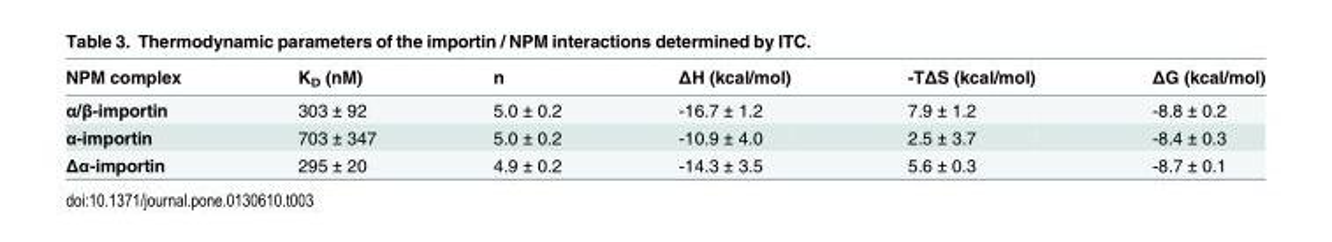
<table><thead><tr><td>NPM complex</td><td>K<sub>D</sub> (nM)</td><td>n</td><td>ΔH (kcal/mol)</td><td>-TΔS (kcal/mol)</td><td>ΔG (kcal/mol)</td></tr></thead><tbody><tr><td>α/β-importin</td><td>303 ± 92</td><td>5.0 ± 0.2</td><td>-16.7 ± 1.2</td><td>7.9 ± 1.2</td><td>-8.8 ± 0.2</td></tr><tr><td>α-importin</td><td>703 ± 347</td><td>5.0 ± 0.2</td><td>-10.9 ± 4.0</td><td>2.5 ± 3.7</td><td>-8.4 ± 0.3</td></tr><tr><td>Δα-importin</td><td>295 ± 20</td><td>4.9 ± 0.2</td><td>-14.3 ± 3.5</td><td>5.6 ± 0.3</td><td>-8.7 ± 0.1</td></tr></tbody></table>